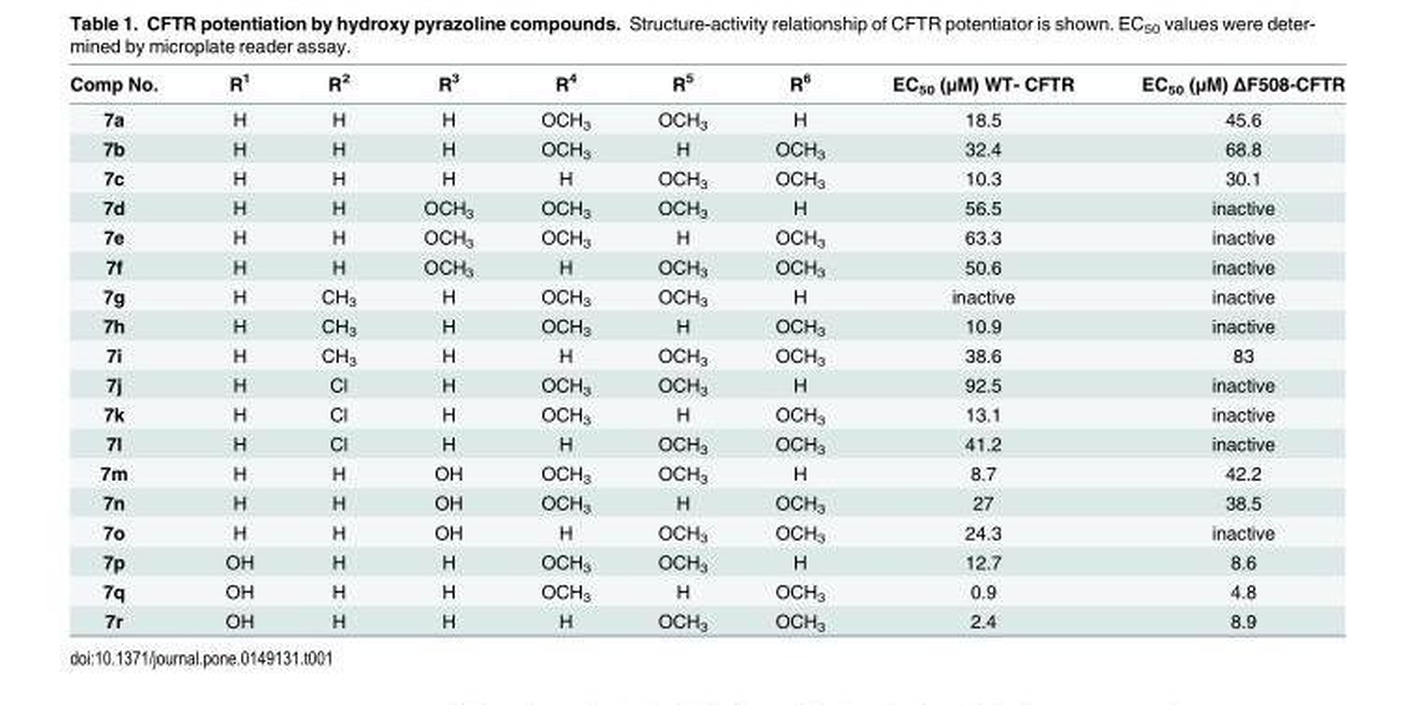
<table><thead><tr><td>Comp No.</td><td>R<sup>1</sup></td><td>R<sup>2</sup></td><td>R<sup>3</sup></td><td>R<sup>4</sup></td><td>R<sup>5</sup></td><td>R<sup>6</sup></td><td>EC<sub>50</sub> (μM) WT- CFTR</td><td>EC<sub>50</sub> (μM) ΔF508-CFTR</td></tr></thead><tbody><tr><td>7a</td><td>H</td><td>H</td><td>H</td><td>OCH<sub>3</sub></td><td>OCH<sub>3</sub></td><td>H</td><td>18.5</td><td>45.6</td></tr><tr><td>7b</td><td>H</td><td>H</td><td>H</td><td>OCH<sub>3</sub></td><td>H</td><td>OCH<sub>3</sub></td><td>32.4</td><td>68.8</td></tr><tr><td>7c</td><td>H</td><td>H</td><td>H</td><td>H</td><td>OCH<sub>3</sub></td><td>OCH<sub>3</sub></td><td>10.3</td><td>30.1</td></tr><tr><td>7d</td><td>H</td><td>H</td><td>OCH<sub>3</sub></td><td>OCH<sub>3</sub></td><td>OCH<sub>3</sub></td><td>H</td><td>56.5</td><td>inactive</td></tr><tr><td>7e</td><td>H</td><td>H</td><td>OCH<sub>3</sub></td><td>OCH<sub>3</sub></td><td>H</td><td>OCH<sub>3</sub></td><td>63.3</td><td>inactive</td></tr><tr><td>7f</td><td>H</td><td>H</td><td>OCH<sub>3</sub></td><td>H</td><td>OCH<sub>3</sub></td><td>OCH<sub>3</sub></td><td>50.6</td><td>inactive</td></tr><tr><td>7g</td><td>H</td><td>CH<sub>3</sub></td><td>H</td><td>OCH<sub>3</sub></td><td>OCH<sub>3</sub></td><td>H</td><td>inactive</td><td>inactive</td></tr><tr><td>7h</td><td>H</td><td>CH<sub>3</sub></td><td>H</td><td>OCH<sub>3</sub></td><td>H</td><td>OCH<sub>3</sub></td><td>10.9</td><td>inactive</td></tr><tr><td>7i</td><td>H</td><td>CH<sub>3</sub></td><td>H</td><td>H</td><td>OCH<sub>3</sub></td><td>OCH<sub>3</sub></td><td>38.6</td><td>83</td></tr><tr><td>7j</td><td>H</td><td>Cl</td><td>H</td><td>OCH<sub>3</sub></td><td>OCH<sub>3</sub></td><td>H</td><td>92.5</td><td>inactive</td></tr><tr><td>7k</td><td>H</td><td>Cl</td><td>H</td><td>OCH<sub>3</sub></td><td>H</td><td>OCH<sub>3</sub></td><td>13.1</td><td>inactive</td></tr><tr><td>7l</td><td>H</td><td>Cl</td><td>H</td><td>H</td><td>OCH<sub>3</sub></td><td>OCH<sub>3</sub></td><td>41.2</td><td>inactive</td></tr><tr><td>7m</td><td>H</td><td>H</td><td>OH</td><td>OCH<sub>3</sub></td><td>OCH<sub>3</sub></td><td>H</td><td>8.7</td><td>42.2</td></tr><tr><td>7n</td><td>H</td><td>H</td><td>OH</td><td>OCH<sub>3</sub></td><td>H</td><td>OCH<sub>3</sub></td><td>27</td><td>38.5</td></tr><tr><td>7o</td><td>H</td><td>H</td><td>OH</td><td>H</td><td>OCH<sub>3</sub></td><td>OCH<sub>3</sub></td><td>24.3</td><td>inactive</td></tr><tr><td>7p</td><td>OH</td><td>H</td><td>H</td><td>OCH<sub>3</sub></td><td>OCH<sub>3</sub></td><td>H</td><td>12.7</td><td>8.6</td></tr><tr><td>7q</td><td>OH</td><td>H</td><td>H</td><td>OCH<sub>3</sub></td><td>H</td><td>OCH<sub>3</sub></td><td>0.9</td><td>4.8</td></tr><tr><td>7r</td><td>OH</td><td>H</td><td>H</td><td>H</td><td>OCH<sub>3</sub></td><td>OCH<sub>3</sub></td><td>2.4</td><td>8.9</td></tr></tbody></table>